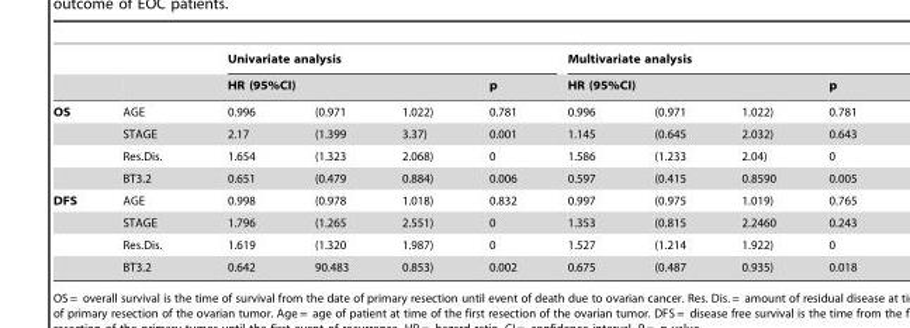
<table><thead><tr><td rowspan="3">OS</td><td rowspan="3">AGE</td><td colspan="4">Univariate analysis</td><td colspan="4">Multivariate analysis</td></tr><tr><td colspan="3">HR (95%CI)</td><td rowspan="2">p 0.781</td><td colspan="3">HR (95%CI)</td><td rowspan="2">p 0.781</td></tr><tr><td>0.996</td><td>(0.971</td><td>1.022)</td><td>0.996</td><td>(0.971</td><td>1.022)</td></tr></thead><tbody><tr><td></td><td>STAGE</td><td>2.17</td><td>(1.399</td><td>3.37)</td><td>0.001</td><td>1.145</td><td>(0.645</td><td>2.032)</td><td>0.643</td></tr><tr><td></td><td>Res.Dis.</td><td>1.654</td><td>(1.323</td><td>2.068)</td><td>0</td><td>1.586</td><td>(1.233</td><td>2.04)</td><td>0</td></tr><tr><td></td><td>BT3.2</td><td>0.651</td><td>(0.479</td><td>0.884)</td><td>0.006</td><td>0.597</td><td>(0.415</td><td>0.8590</td><td>0.005</td></tr><tr><td rowspan="4">DFS</td><td>AGE</td><td>0.998</td><td>(0.978</td><td>1.018)</td><td>0.832</td><td>0.997</td><td>(0.975</td><td>1.019)</td><td>0.765</td></tr><tr><td>STAGE</td><td>1.796</td><td>(1.265</td><td>2.551)</td><td>0</td><td>1.353</td><td>(0.815</td><td>2.2460</td><td>0.243</td></tr><tr><td>Res.Dis.</td><td>1.619</td><td>(1.320</td><td>1.987)</td><td>0</td><td>1.527</td><td>(1.214</td><td>1.922)</td><td>0</td></tr><tr><td>BT3.2</td><td>0.642</td><td>90.483</td><td>0.853)</td><td>0.002</td><td>0.675</td><td>(0.487</td><td>0.935)</td><td>0.018</td></tr></tbody></table>